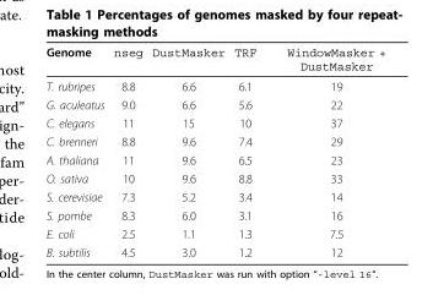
<table><thead><tr><td>Genome</td><td>nseg</td><td>DustMasker</td><td>TRF</td><td>WindowMasker + DustMasker</td></tr></thead><tbody><tr><td>T. rubripes</td><td>8.8</td><td>6.6</td><td>6.1</td><td>19</td></tr><tr><td>G. aculeatus</td><td>9.0</td><td>6.6</td><td>5.6</td><td>22</td></tr><tr><td>C. elegans</td><td>11</td><td>15</td><td>10</td><td>37</td></tr><tr><td>C. brenneri</td><td>8.8</td><td>9.6</td><td>7.4</td><td>29</td></tr><tr><td>A. thaliana</td><td>11</td><td>9.6</td><td>6.5</td><td>23</td></tr><tr><td>O. sativa</td><td>10</td><td>9.6</td><td>8.8</td><td>33</td></tr><tr><td>S. cerevisiae</td><td>7.3</td><td>5.2</td><td>3.4</td><td>14</td></tr><tr><td>S. pombe</td><td>8.3</td><td>6.0</td><td>3.1</td><td>16</td></tr><tr><td>E. coli</td><td>2.5</td><td>1.1</td><td>1.3</td><td>7.5</td></tr><tr><td>B. subtilis</td><td>4.5</td><td>3.0</td><td>1.2</td><td>12</td></tr></tbody></table>